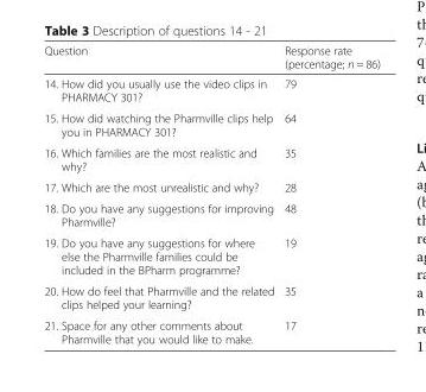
<table><thead><tr><td>Question</td><td>Response rate (percentage; n = 86)</td></tr></thead><tbody><tr><td>14. How did you usually use the video clips in PHARMACY 301?</td><td>79</td></tr><tr><td>15. How did watching the Pharmville clips help you in PHARMACY 301?</td><td>64</td></tr><tr><td>16. Which families are the most realistic and why?</td><td>35</td></tr><tr><td>17. Which are the most unrealistic and why?</td><td>28</td></tr><tr><td>18. Do you have any suggestions for improving Pharmville?</td><td>48</td></tr><tr><td>19. Do you have any suggestions for where else the Pharmville families could be included in the BPharm programme?</td><td>19</td></tr><tr><td>20. How do feel that Pharmville and the related clips helped your learning?</td><td>35</td></tr><tr><td>21. Space for any other comments about Pharmville that you would like to make.</td><td>17</td></tr></tbody></table>